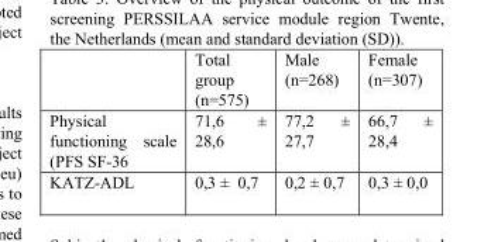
<table><thead><tr><td></td><td>Total group (n=575)</td><td>Male (n=268)</td><td>Female (n=307)</td></tr></thead><tbody><tr><td>Physical functioning scale (PFS SF-36</td><td>71,6 ± 28,6</td><td>77,2 ± 27,7</td><td>66,7 ± 28,4</td></tr><tr><td>KATZ-ADL</td><td>0,3 ± 0,7</td><td>0,2 ± 0,7</td><td>0,3 ± 0,0</td></tr></tbody></table>